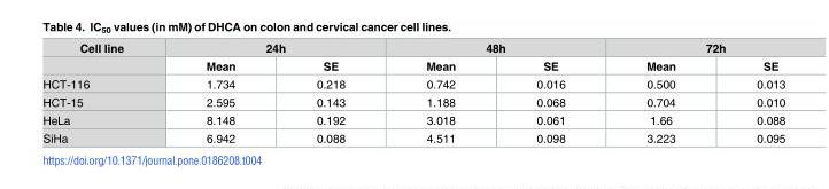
<table><thead><tr><td rowspan="2">Cell line</td><td colspan="2">24h</td><td colspan="2">48h</td><td colspan="2">72h</td></tr><tr><td>Mean</td><td>SE</td><td>Mean</td><td>SE</td><td>Mean</td><td>SE</td></tr></thead><tbody><tr><td>HCT-116</td><td>1.734</td><td>0.218</td><td>0.742</td><td>0.016</td><td>0.500</td><td>0.013</td></tr><tr><td>HCT-15</td><td>2.595</td><td>0.143</td><td>1.188</td><td>0.068</td><td>0.704</td><td>0.010</td></tr><tr><td>HeLa</td><td>8.148</td><td>0.192</td><td>3.018</td><td>0.061</td><td>1.66</td><td>0.088</td></tr><tr><td>SiHa</td><td>6.942</td><td>0.088</td><td>4.511</td><td>0.098</td><td>3.223</td><td>0.095</td></tr></tbody></table>